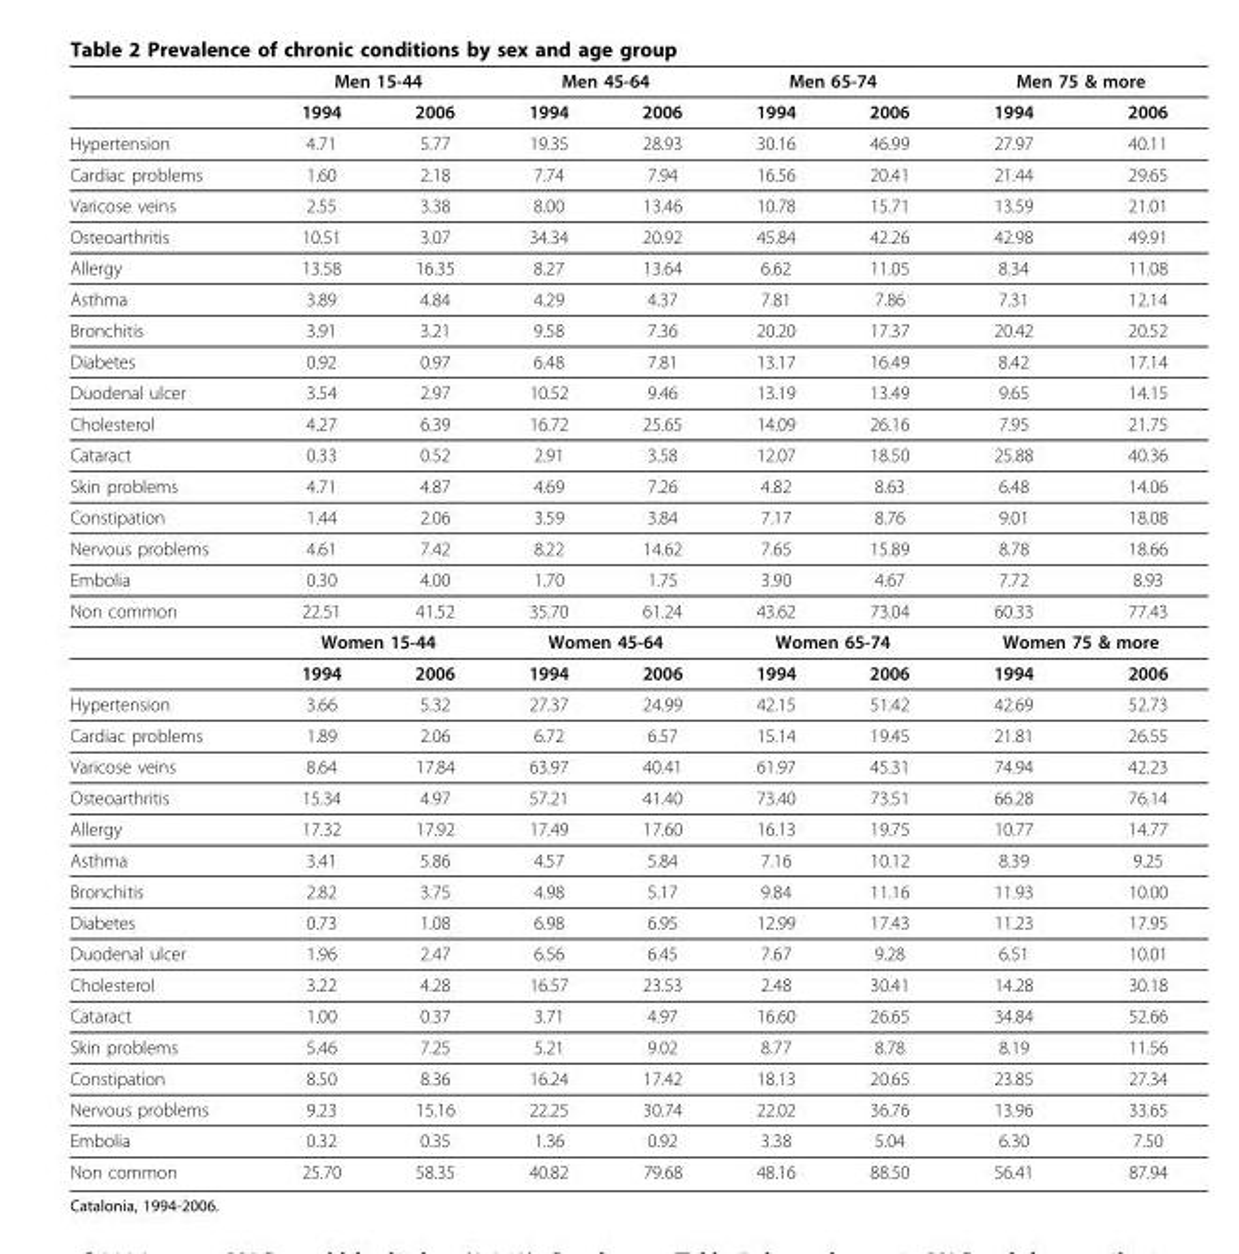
<table><thead><tr><td rowspan="2"></td><td colspan="2">Men 15-44</td><td colspan="2">Men 45-64</td><td colspan="2">Men 65-74</td><td colspan="2">Men 75 &amp; more</td></tr><tr><td>1994</td><td>2006</td><td>1994</td><td>2006</td><td>1994</td><td>2006</td><td>1994</td><td>2006</td></tr></thead><tbody><tr><td>Hypertension</td><td>4.71</td><td>5.77</td><td>19.35</td><td>28.93</td><td>30.16</td><td>46.99</td><td>27.97</td><td>40.11</td></tr><tr><td>Cardiac problems</td><td>1.60</td><td>2.18</td><td>7.74</td><td>7.94</td><td>16.56</td><td>20.41</td><td>21.44</td><td>29.65</td></tr><tr><td>Varicose veins</td><td>2.55</td><td>3.38</td><td>8.00</td><td>13.46</td><td>10.78</td><td>15.71</td><td>13.59</td><td>21.01</td></tr><tr><td>Osteoarthritis</td><td>10.51</td><td>3.07</td><td>34.34</td><td>20.92</td><td>45.84</td><td>42.26</td><td>42.98</td><td>49.91</td></tr><tr><td>Allergy</td><td>13.58</td><td>16.35</td><td>8.27</td><td>13.64</td><td>6.62</td><td>11.05</td><td>8.34</td><td>11.08</td></tr><tr><td>Asthma</td><td>3.89</td><td>4.84</td><td>4.29</td><td>4.37</td><td>7.81</td><td>7.86</td><td>7.31</td><td>12.14</td></tr><tr><td>Bronchitis</td><td>3.91</td><td>3.21</td><td>9.58</td><td>7.36</td><td>20.20</td><td>17.37</td><td>20.42</td><td>20.52</td></tr><tr><td>Diabetes</td><td>0.92</td><td>0.97</td><td>6.48</td><td>7.81</td><td>13.17</td><td>16.49</td><td>8.42</td><td>17.14</td></tr><tr><td>Duodenal ulcer</td><td>3.54</td><td>2.97</td><td>10.52</td><td>9.46</td><td>13.19</td><td>13.49</td><td>9.65</td><td>14.15</td></tr><tr><td>Cholesterol</td><td>4.27</td><td>6.39</td><td>16.72</td><td>25.65</td><td>14.09</td><td>26.16</td><td>7.95</td><td>21.75</td></tr><tr><td>Cataract</td><td>0.33</td><td>0.52</td><td>2.91</td><td>3.58</td><td>12.07</td><td>18.50</td><td>25.88</td><td>40.36</td></tr><tr><td>Skin problems</td><td>4.71</td><td>4.87</td><td>4.69</td><td>7.26</td><td>4.82</td><td>8.63</td><td>6.48</td><td>14.06</td></tr><tr><td>Constipation</td><td>1.44</td><td>2.06</td><td>3.59</td><td>3.84</td><td>7.17</td><td>8.76</td><td>9.01</td><td>18.08</td></tr><tr><td>Nervous problems</td><td>4.61</td><td>7.42</td><td>8.22</td><td>14.62</td><td>7.65</td><td>15.89</td><td>8.78</td><td>18.66</td></tr><tr><td>Embolia</td><td>0.30</td><td>4.00</td><td>1.70</td><td>1.75</td><td>3.90</td><td>4.67</td><td>7.72</td><td>8.93</td></tr><tr><td rowspan="3">Non common</td><td>22.51</td><td>41.52</td><td>35.70</td><td>61.24</td><td>43.62</td><td>73.04</td><td>60.33</td><td>77.43</td></tr><tr><td colspan="2">Women 15-44</td><td colspan="2">Women 45-64</td><td colspan="2">Women 65-74</td><td colspan="2">Women 75 &amp; more</td></tr><tr><td>1994</td><td>2006</td><td>1994</td><td>2006</td><td>1994</td><td>2006</td><td>1994</td><td>2006</td></tr><tr><td>Hypertension</td><td>3.66</td><td>5.32</td><td>27.37</td><td>24.99</td><td>42.15</td><td>51.42</td><td>42.69</td><td>52.73</td></tr><tr><td>Cardiac problems</td><td>1.89</td><td>2.06</td><td>6.72</td><td>6.57</td><td>15.14</td><td>19.45</td><td>21.81</td><td>26.55</td></tr><tr><td>Varicose veins</td><td>8.64</td><td>17.84</td><td>63.97</td><td>40.41</td><td>61.97</td><td>45.31</td><td>74.94</td><td>42.23</td></tr><tr><td>Osteoarthritis</td><td>15.34</td><td>4.97</td><td>57.21</td><td>41.40</td><td>73.40</td><td>73.51</td><td>66.28</td><td>76.14</td></tr><tr><td>Allergy</td><td>17.32</td><td>17.92</td><td>17.49</td><td>17.60</td><td>16.13</td><td>19.75</td><td>10.77</td><td>14.77</td></tr><tr><td>Asthma</td><td>3.41</td><td>5.86</td><td>4.57</td><td>5.84</td><td>7.16</td><td>10.12</td><td>8.39</td><td>9.25</td></tr><tr><td>Bronchitis</td><td>2.82</td><td>3.75</td><td>4.98</td><td>5.17</td><td>9.84</td><td>11.16</td><td>11.93</td><td>10.00</td></tr><tr><td>Diabetes</td><td>0.73</td><td>1.08</td><td>6.98</td><td>6.95</td><td>12.99</td><td>17.43</td><td>11.23</td><td>17.95</td></tr><tr><td>Duodenal ulcer</td><td>1.96</td><td>2.47</td><td>6.56</td><td>6.45</td><td>7.67</td><td>9.28</td><td>6.51</td><td>10.01</td></tr><tr><td>Cholesterol</td><td>3.22</td><td>4.28</td><td>16.57</td><td>23.53</td><td>2.48</td><td>30.41</td><td>14.28</td><td>30.18</td></tr><tr><td>Cataract</td><td>1.00</td><td>0.37</td><td>3.71</td><td>4.97</td><td>16.60</td><td>26.65</td><td>34.84</td><td>52.66</td></tr><tr><td>Skin problems</td><td>5.46</td><td>7.25</td><td>5.21</td><td>9.02</td><td>8.77</td><td>8.78</td><td>8.19</td><td>11.56</td></tr><tr><td>Constipation</td><td>8.50</td><td>8.36</td><td>16.24</td><td>17.42</td><td>18.13</td><td>20.65</td><td>23.85</td><td>27.34</td></tr><tr><td>Nervous problems</td><td>9.23</td><td>15.16</td><td>22.25</td><td>30.74</td><td>22.02</td><td>36.76</td><td>13.96</td><td>33.65</td></tr><tr><td>Embolia</td><td>0.32</td><td>0.35</td><td>1.36</td><td>0.92</td><td>3.38</td><td>5.04</td><td>6.30</td><td>7.50</td></tr><tr><td>Non common</td><td>25.70</td><td>58.35</td><td>40.82</td><td>79.68</td><td>48.16</td><td>88.50</td><td>56.41</td><td>87.94</td></tr></tbody></table>